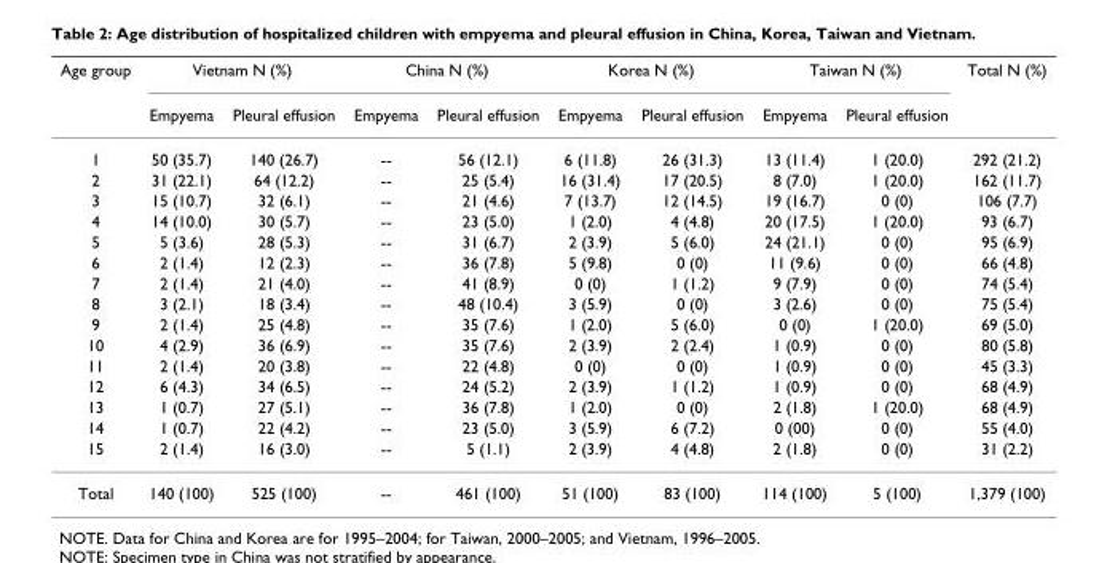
<table><thead><tr><td rowspan="2">Age group</td><td colspan="2">Vietnam N (%)</td><td colspan="2">China N (%)</td><td colspan="2">Korea N (%)</td><td colspan="2">Taiwan N (%)</td><td rowspan="2">Total N (%)</td></tr><tr><td>Empyema</td><td>Pleural effusion</td><td>Empyema</td><td>Pleural effusion</td><td>Empyema</td><td>Pleural effusion</td><td>Empyema</td><td>Pleural effusion</td></tr></thead><tbody><tr><td>1</td><td>50 (35.7)</td><td>140 (26.7)</td><td>--</td><td>56 (12.1)</td><td>6 (11.8)</td><td>26 (31.3)</td><td>13 (11.4)</td><td>1 (20.0)</td><td>292 (21.2)</td></tr><tr><td>2</td><td>31 (22.1)</td><td>64 (12.2)</td><td>--</td><td>25 (5.4)</td><td>16 (31.4)</td><td>17 (20.5)</td><td>8 (7.0)</td><td>1 (20.0)</td><td>162 (11.7)</td></tr><tr><td>3</td><td>15 (10.7)</td><td>32 (6.1)</td><td>--</td><td>21 (4.6)</td><td>7 (13.7)</td><td>12 (14.5)</td><td>19 (16.7)</td><td>0 (0)</td><td>106 (7.7)</td></tr><tr><td>4</td><td>14 (10.0)</td><td>30 (5.7)</td><td>--</td><td>23 (5.0)</td><td>1 (2.0)</td><td>4 (4.8)</td><td>20 (17.5)</td><td>1 (20.0)</td><td>93 (6.7)</td></tr><tr><td>5</td><td>5 (3.6)</td><td>28 (5.3)</td><td>--</td><td>31 (6.7)</td><td>2 (3.9)</td><td>5 (6.0)</td><td>24 (21.1)</td><td>0 (0)</td><td>95 (6.9)</td></tr><tr><td>6</td><td>2 (1.4)</td><td>12 (2.3)</td><td>--</td><td>36 (7.8)</td><td>5 (9.8)</td><td>0 (0)</td><td>11 (9.6)</td><td>0 (0)</td><td>66 (4.8)</td></tr><tr><td>7</td><td>2 (1.4)</td><td>21 (4.0)</td><td>--</td><td>41 (8.9)</td><td>0 (0)</td><td>1 (1.2)</td><td>9 (7.9)</td><td>0 (0)</td><td>74 (5.4)</td></tr><tr><td>8</td><td>3 (2.1)</td><td>18 (3.4)</td><td>--</td><td>48 (10.4)</td><td>3 (5.9)</td><td>0 (0)</td><td>3 (2.6)</td><td>0 (0)</td><td>75 (5.4)</td></tr><tr><td>9</td><td>2 (1.4)</td><td>25 (4.8)</td><td>--</td><td>35 (7.6)</td><td>1 (2.0)</td><td>5 (6.0)</td><td>0 (0)</td><td>1 (20.0)</td><td>69 (5.0)</td></tr><tr><td>10</td><td>4 (2.9)</td><td>36 (6.9)</td><td>--</td><td>35 (7.6)</td><td>2 (3.9)</td><td>2 (2.4)</td><td>1 (0.9)</td><td>0 (0)</td><td>80 (5.8)</td></tr><tr><td>11</td><td>2 (1.4)</td><td>20 (3.8)</td><td>--</td><td>22 (4.8)</td><td>0 (0)</td><td>0 (0)</td><td>1 (0.9)</td><td>0 (0)</td><td>45 (3.3)</td></tr><tr><td>12</td><td>6 (4.3)</td><td>34 (6.5)</td><td>--</td><td>24 (5.2)</td><td>2 (3.9)</td><td>1 (1.2)</td><td>1 (0.9)</td><td>0 (0)</td><td>68 (4.9)</td></tr><tr><td>13</td><td>1 (0.7)</td><td>27 (5.1)</td><td>--</td><td>36 (7.8)</td><td>1 (2.0)</td><td>0 (0)</td><td>2 (1.8)</td><td>1 (20.0)</td><td>68 (4.9)</td></tr><tr><td>14</td><td>1 (0.7)</td><td>22 (4.2)</td><td>--</td><td>23 (5.0)</td><td>3 (5.9)</td><td>6 (7.2)</td><td>0 (00)</td><td>0 (0)</td><td>55 (4.0)</td></tr><tr><td>15</td><td>2 (1.4)</td><td>16 (3.0)</td><td>--</td><td>5 (1.1)</td><td>2 (3.9)</td><td>4 (4.8)</td><td>2 (1.8)</td><td>0 (0)</td><td>31 (2.2)</td></tr><tr><td>Total</td><td>140 (100)</td><td>525 (100)</td><td>--</td><td>461 (100)</td><td>51 (100)</td><td>83 (100)</td><td>114 (100)</td><td>5 (100)</td><td>1,379 (100)</td></tr></tbody></table>